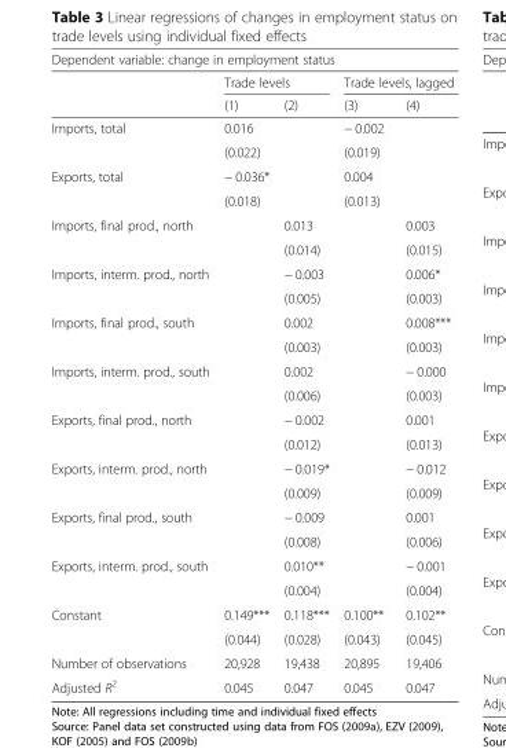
<table><thead><tr><td colspan="5">Dependent variable: change in employment status</td></tr><tr><td rowspan="2"></td><td colspan="2">Trade levels</td><td colspan="2">Trade levels, lagged</td></tr><tr><td>(1)</td><td>(2)</td><td>(3)</td><td>(4)</td></tr></thead><tbody><tr><td rowspan="2">Imports, total</td><td>0.016</td><td></td><td>− 0.002</td><td></td></tr><tr><td>(0.022)</td><td></td><td>(0.019)</td><td></td></tr><tr><td rowspan="2">Exports, total</td><td>− 0.036*</td><td></td><td>0.004</td><td></td></tr><tr><td>(0.018)</td><td></td><td>(0.013)</td><td></td></tr><tr><td rowspan="2">Imports, final prod., north</td><td></td><td>0.013</td><td></td><td>0.003</td></tr><tr><td></td><td>(0.014)</td><td></td><td>(0.015)</td></tr><tr><td rowspan="2">Imports, interm. prod., north</td><td></td><td>− 0.003</td><td></td><td>0.006*</td></tr><tr><td></td><td>(0.005)</td><td></td><td>(0.003)</td></tr><tr><td rowspan="2">Imports, final prod., south</td><td></td><td>0.002</td><td></td><td>0.008***</td></tr><tr><td></td><td>(0.003)</td><td></td><td>(0.003)</td></tr><tr><td rowspan="2">Imports, interm. prod., south</td><td></td><td>0.002</td><td></td><td>− 0.000</td></tr><tr><td></td><td>(0.006)</td><td></td><td>(0.003)</td></tr><tr><td rowspan="2">Exports, final prod., north</td><td></td><td>− 0.002</td><td></td><td>0.001</td></tr><tr><td></td><td>(0.012)</td><td></td><td>(0.013)</td></tr><tr><td rowspan="2">Exports, interm. prod., north</td><td></td><td>− 0.019*</td><td></td><td>− 0.012</td></tr><tr><td></td><td>(0.009)</td><td></td><td>(0.009)</td></tr><tr><td rowspan="2">Exports, final prod., south</td><td></td><td>− 0.009</td><td></td><td>0.001</td></tr><tr><td></td><td>(0.008)</td><td></td><td>(0.006)</td></tr><tr><td rowspan="2">Exports, interm. prod., south</td><td></td><td>0.010**</td><td></td><td>− 0.001</td></tr><tr><td></td><td>(0.004)</td><td></td><td>(0.004)</td></tr><tr><td rowspan="2">Constant</td><td>0.149***</td><td>0.118***</td><td>0.100**</td><td>0.102**</td></tr><tr><td>(0.044)</td><td>(0.028)</td><td>(0.043)</td><td>(0.045)</td></tr><tr><td>Number of observations</td><td>20,928</td><td>19,438</td><td>20,895</td><td>19,406</td></tr><tr><td>Adjusted R<sup>2</sup></td><td>0.045</td><td>0.047</td><td>0.045</td><td>0.047</td></tr></tbody></table>